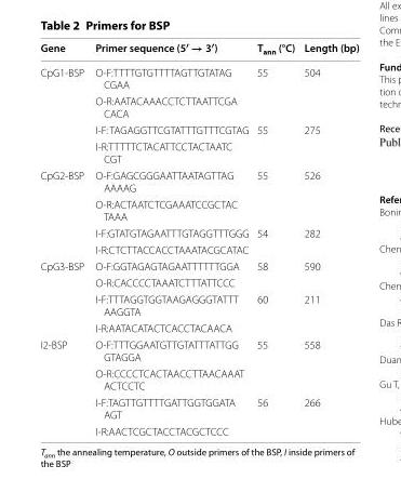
<table><thead><tr><td>Gene</td><td>Primer sequence (5′ → 3′)</td><td>T<sub>ann</sub> (°C)</td><td>Length (bp)</td></tr></thead><tbody><tr><td rowspan="4">CpG1-BSP</td><td>O-F:TTTTGTGTTTTAGTTGTATAG CGAA</td><td rowspan="2">55</td><td rowspan="2">504</td></tr><tr><td>O-R:AATACAAACCTCTTAATTCGA CACA</td></tr><tr><td>I-F: TAGAGGTTCGTATTTGTTTCGTAG</td><td rowspan="2">55</td><td rowspan="2">275</td></tr><tr><td>I-R:TTTTTCTACATTCCTACTAATC CGT</td></tr><tr><td rowspan="4">CpG2-BSP</td><td>O-F:GAGCGGGAATTAATAGTTAG AAAAG</td><td rowspan="2">55</td><td rowspan="2">526</td></tr><tr><td>O-R:ACTAATCTCGAAATCCGCTAC TAAA</td></tr><tr><td>I-F:GTATGTAGAATTTGTAGGTTTGGG</td><td rowspan="2">54</td><td rowspan="2">282</td></tr><tr><td>I-R:CTCTTACCACCTAAATACGCATAC</td></tr><tr><td rowspan="4">CpG3-BSP</td><td>O-F:GGTAGAGTAGAATTTTTTGGA</td><td rowspan="2">58</td><td rowspan="2">590</td></tr><tr><td>O-R:CACCCCTAAATCTTTATTCCC</td></tr><tr><td>I-F:TTTAGGTGGTAAGAGGGTATTT AAGGTA</td><td rowspan="2">60</td><td rowspan="2">211</td></tr><tr><td>I-R:AATACATACTCACCTACAACA</td></tr><tr><td rowspan="4">I2-BSP</td><td>O-F:TTTGGAATGTTGTATTTATTGG GTAGGA</td><td rowspan="2">55</td><td rowspan="2">558</td></tr><tr><td>O-R:CCCCTCACTAACCTTAACAAAT ACTCCTC</td></tr><tr><td>I-F:TAGTTGTTTTGATTGGTGGATA AGT</td><td rowspan="2">56</td><td rowspan="2">266</td></tr><tr><td>I-R:AACTCGCTACCTACGCTCCC</td></tr></tbody></table>